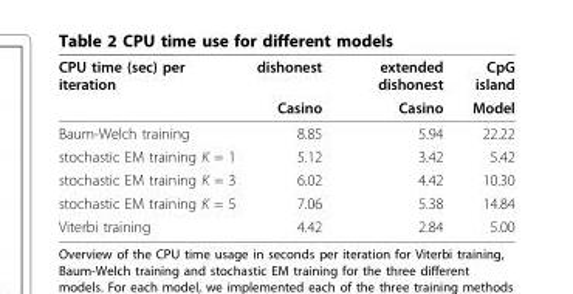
<table><thead><tr><td rowspan="2">CPU time (sec) per iteration</td><td rowspan="2">dishonest Casino</td><td rowspan="2">extended dishonest Casino</td><td rowspan="2">CpG island Model</td></tr><tr></tr></thead><tbody><tr><td>Baum-Welch training</td><td>8.85</td><td>5.94</td><td>22.22</td></tr><tr><td>stochastic EM training K = 1</td><td>5.12</td><td>3.42</td><td>5.42</td></tr><tr><td>stochastic EM training K = 3</td><td>6.02</td><td>4.42</td><td>10.30</td></tr><tr><td>stochastic EM training K = 5</td><td>7.06</td><td>5.38</td><td>14.84</td></tr><tr><td>Viterbi training</td><td>4.42</td><td>2.84</td><td>5.00</td></tr></tbody></table>